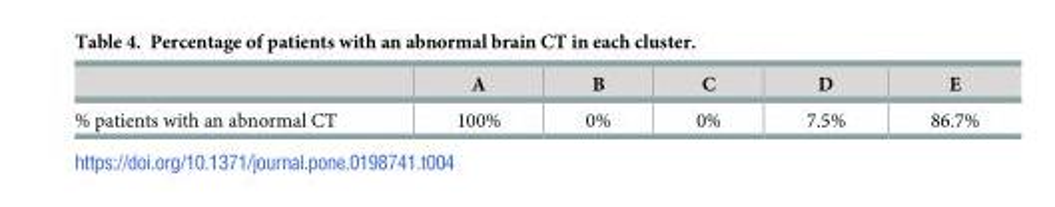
<table><thead><tr><td></td><td>A</td><td>B</td><td>C</td><td>D</td><td>E</td></tr></thead><tbody><tr><td>% patients with an abnormal CT</td><td>100%</td><td>0%</td><td>0%</td><td>7.5%</td><td>86.7%</td></tr></tbody></table>